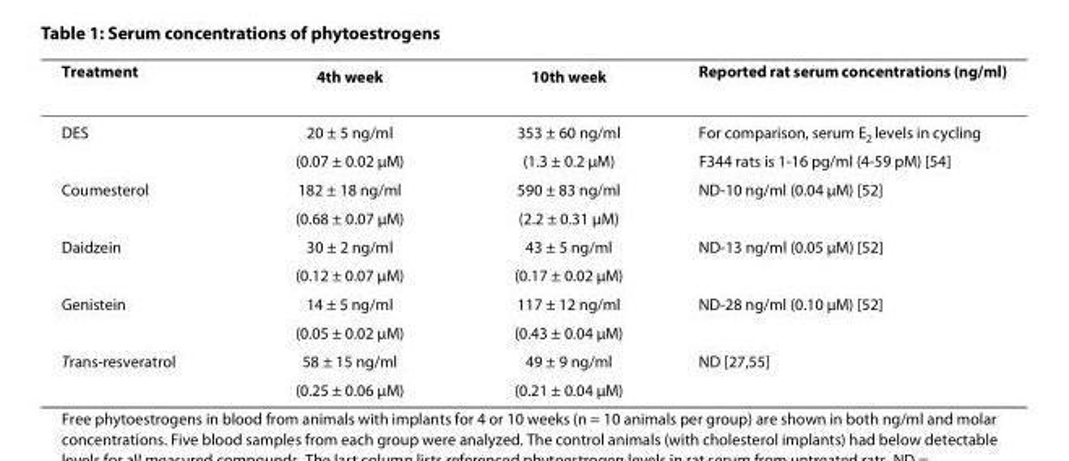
<table><thead><tr><td>Treatment</td><td>4<sup>th</sup> week</td><td>10<sup>th</sup> week</td><td>Reported rat serum concentrations (ng/ml)</td></tr></thead><tbody><tr><td rowspan="2">DES</td><td>20 ± 5 ng/ml</td><td>353 ± 60 ng/ml</td><td>For comparison, serum E<sub>2</sub> levels in cycling</td></tr><tr><td>(0.07 ± 0.02 μM)</td><td>(1.3 ± 0.2 μM)</td><td>F344 rats is 1-16 pg/ml (4-59 pM) [54]</td></tr><tr><td rowspan="2">Coumesterol</td><td>182 ± 18 ng/ml</td><td>590 ± 83 ng/ml</td><td>ND-10 ng/ml (0.04 μM) [52]</td></tr><tr><td>(0.68 ± 0.07 μM)</td><td>(2.2 ± 0.31 μM)</td><td></td></tr><tr><td rowspan="2">Daidzein</td><td>30 ± 2 ng/ml</td><td>43 ± 5 ng/ml</td><td>ND-13 ng/ml (0.05 μM) [52]</td></tr><tr><td>(0.12 ± 0.07 μM)</td><td>(0.17 ± 0.02 μM)</td><td></td></tr><tr><td rowspan="2">Genistein</td><td>14 ± 5 ng/ml</td><td>117 ± 12 ng/ml</td><td>ND-28 ng/ml (0.10 μM) [52]</td></tr><tr><td>(0.05 ± 0.02 μM)</td><td>(0.43 ± 0.04 μM)</td><td></td></tr><tr><td rowspan="2">Trans-resveratrol</td><td>58 ± 15 ng/ml</td><td>49 ± 9 ng/ml</td><td>ND [27,55]</td></tr><tr><td>(0.25 ± 0.06 μM)</td><td>(0.21 ± 0.04 μM)</td><td></td></tr></tbody></table>